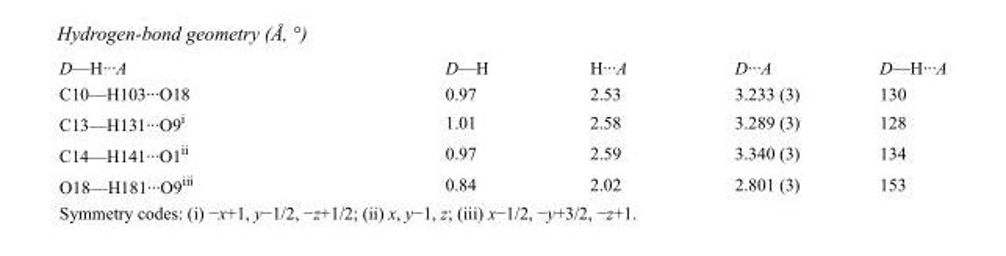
<table><tbody><tr><td>D—H···A</td><td>D—H</td><td>H···A</td><td>D···A</td><td>D—H···A</td></tr><tr><td>C10—H103···O18</td><td>0.97</td><td>2.53</td><td>3.233 (3)</td><td>130</td></tr><tr><td>C13—H131···O9<sup>i</sup></td><td>1.01</td><td>2.58</td><td>3.289 (3)</td><td>128</td></tr><tr><td>C14—H141···O1<sup>ii</sup></td><td>0.97</td><td>2.59</td><td>3.340 (3)</td><td>134</td></tr><tr><td>O18—H181···O9<sup>iii</sup></td><td>0.84</td><td>2.02</td><td>2.801 (3)</td><td>153</td></tr></tbody></table>